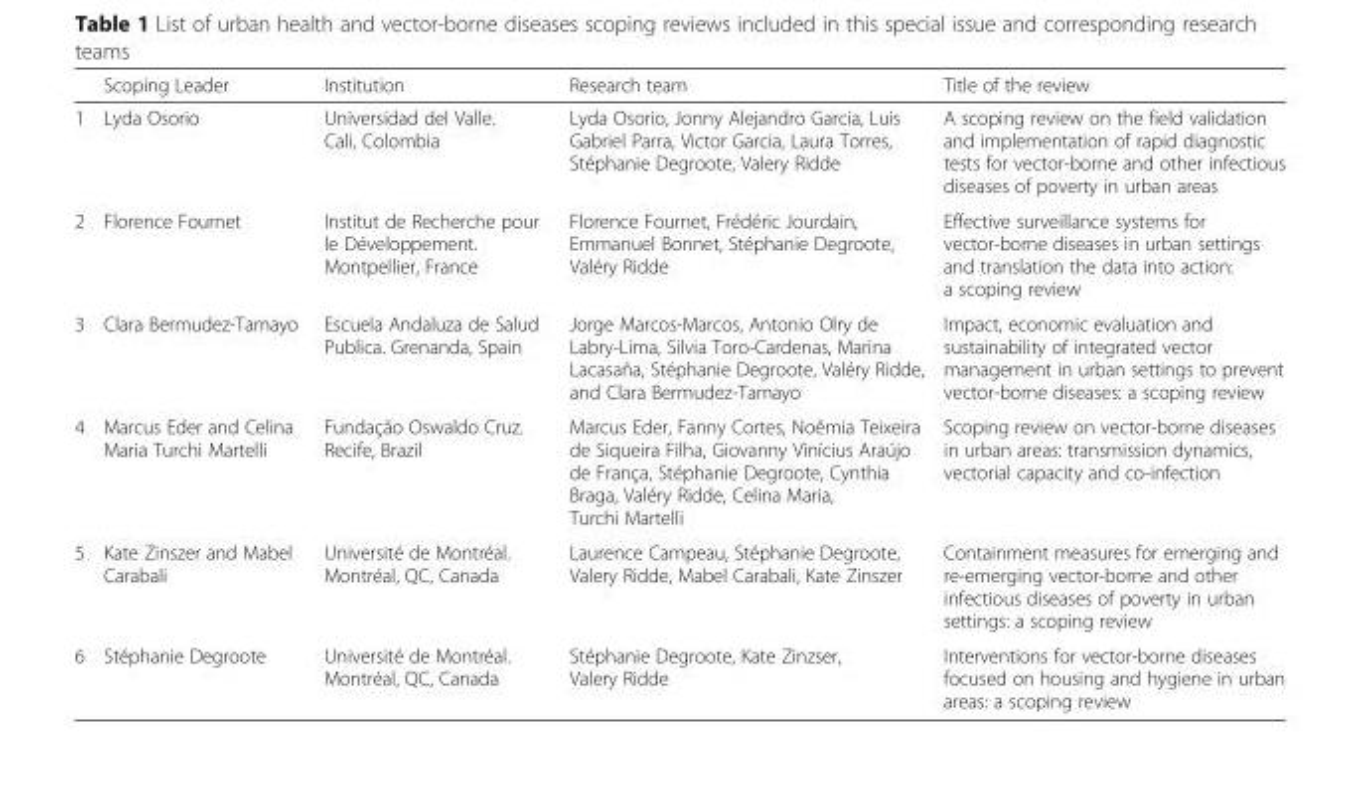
<table><thead><tr><td></td><td>Scoping Leader</td><td>Institution</td><td>Research team</td><td>Title of the review</td></tr></thead><tbody><tr><td>1</td><td>Lyda Osorio</td><td>Universidad del Valle. Cali, Colombia</td><td>Lyda Osorio, Jonny Alejandro Garcia, Luis Gabriel Parra, Victor Garcia, Laura Torres, Stéphanie Degroote, Valery Ridde</td><td>A scoping review on the field validation and implementation of rapid diagnostic tests for vector-borne and other infectious diseases of poverty in urban areas</td></tr><tr><td>2</td><td>Florence Fournet</td><td>Institut de Recherche pour le Développement. Montpellier, France</td><td>Florence Fournet, Frédéric Jourdain, Emmanuel Bonnet, Stéphanie Degroote, Valéry Ridde</td><td>Effective surveillance systems for vector-borne diseases in urban settings and translation the data into action: a scoping review</td></tr><tr><td>3</td><td>Clara Bermudez-Tamayo</td><td>Escuela Andaluza de Salud Publica. Grenanda, Spain</td><td>Jorge Marcos-Marcos, Antonio Olry de Labry-Lima, Silvia Toro-Cardenas, Marina Lacasaña, Stéphanie Degroote, Valéry Ridde, and Clara Bermudez-Tamayo</td><td>Impact, economic evaluation and sustainability of integrated vector management in urban settings to prevent vector-borne diseases: a scoping review</td></tr><tr><td>4</td><td>Marcus Eder and Celina Maria Turchi Martelli</td><td>Fundação Oswaldo Cruz. Recife, Brazil</td><td>Marcus Eder, Fanny Cortes, Noêmia Teixeira de Siqueira Filha, Giovanny Vinícius Araújo de França, Stéphanie Degroote, Cynthia Braga, Valéry Ridde, Celina Maria, Turchi Martelli</td><td>Scoping review on vector-borne diseases in urban areas: transmission dynamics, vectorial capacity and co-infection</td></tr><tr><td>5</td><td>Kate Zinszer and Mabel Carabali</td><td>Université de Montréal. Montréal, QC, Canada</td><td>Laurence Campeau, Stéphanie Degroote, Valery Ridde, Mabel Carabali, Kate Zinszer</td><td>Containment measures for emerging and re-emerging vector-borne and other infectious diseases of poverty in urban settings: a scoping review</td></tr><tr><td>6</td><td>Stéphanie Degroote</td><td>Université de Montréal. Montréal, QC, Canada</td><td>Stéphanie Degroote, Kate Zinzser, Valery Ridde</td><td>Interventions for vector-borne diseases focused on housing and hygiene in urban areas: a scoping review</td></tr></tbody></table>